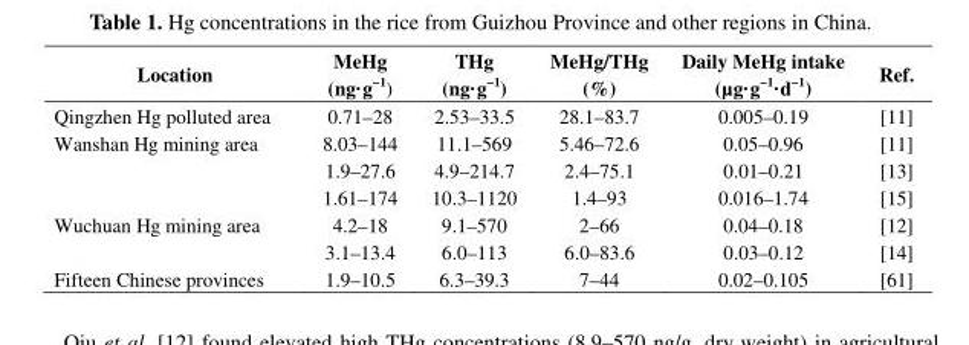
<table><thead><tr><td>Location</td><td>MeHg (ng·g<sup>−1</sup>)</td><td>THg (ng·g<sup>−1</sup>)</td><td>MeHg/THg (%)</td><td>Daily MeHg intake (µg·g<sup>−1</sup>·d<sup>−1</sup>)</td><td>Ref.</td></tr></thead><tbody><tr><td>Qingzhen Hg polluted area</td><td>0.71–28</td><td>2.53–33.5</td><td>28.1–83.7</td><td>0.005–0.19</td><td>[11]</td></tr><tr><td rowspan="3">Wanshan Hg mining area</td><td>8.03–144</td><td>11.1–569</td><td>5.46–72.6</td><td>0.05–0.96</td><td>[11]</td></tr><tr><td>1.9–27.6</td><td>4.9–214.7</td><td>2.4–75.1</td><td>0.01–0.21</td><td>[13]</td></tr><tr><td>1.61–174</td><td>10.3–1120</td><td>1.4–93</td><td>0.016–1.74</td><td>[15]</td></tr><tr><td rowspan="2">Wuchuan Hg mining area</td><td>4.2–18</td><td>9.1–570</td><td>2–66</td><td>0.04–0.18</td><td>[12]</td></tr><tr><td>3.1–13.4</td><td>6.0–113</td><td>6.0–83.6</td><td>0.03–0.12</td><td>[14]</td></tr><tr><td>Fifteen Chinese provinces</td><td>1.9–10.5</td><td>6.3–39.3</td><td>7–44</td><td>0.02–0.105</td><td>[61]</td></tr></tbody></table>